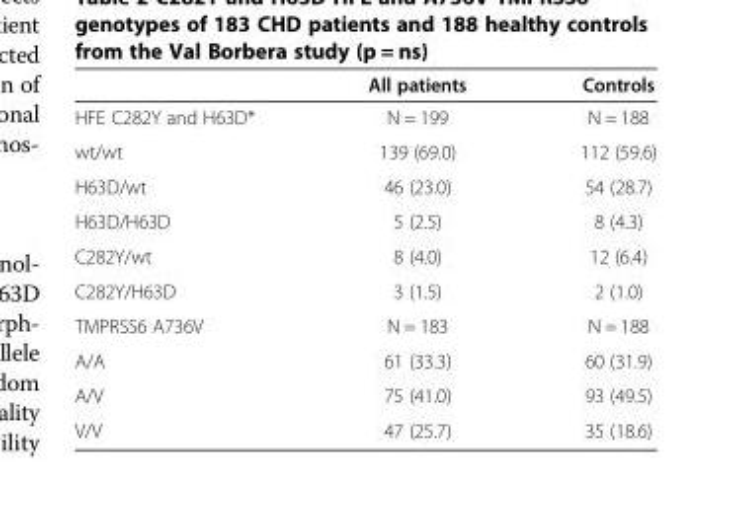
<table><thead><tr><td></td><td>All patients</td><td>Controls</td></tr></thead><tbody><tr><td>HFE C282Y and H63D*</td><td>N = 199</td><td>N = 188</td></tr><tr><td>wt/wt</td><td>139 (69.0)</td><td>112 (59.6)</td></tr><tr><td>H63D/wt</td><td>46 (23.0)</td><td>54 (28.7)</td></tr><tr><td>H63D/H63D</td><td>5 (2.5)</td><td>8 (4.3)</td></tr><tr><td>C282Y/wt</td><td>8 (4.0)</td><td>12 (6.4)</td></tr><tr><td>C282Y/H63D</td><td>3 (1.5)</td><td>2 (1.0)</td></tr><tr><td>TMPRSS6 A736V</td><td>N = 183</td><td>N = 188</td></tr><tr><td>A/A</td><td>61 (33.3)</td><td>60 (31.9)</td></tr><tr><td>A/V</td><td>75 (41.0)</td><td>93 (49.5)</td></tr><tr><td>V/V</td><td>47 (25.7)</td><td>35 (18.6)</td></tr></tbody></table>